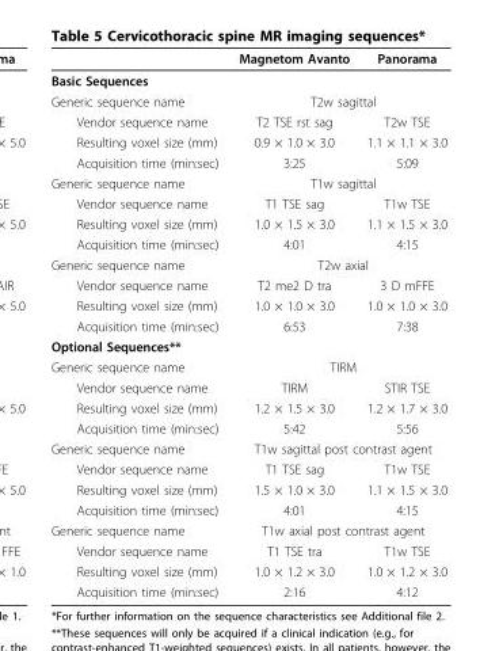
<table><thead><tr><td></td><td>Magnetom Avanto</td><td>Panorama</td></tr></thead><tbody><tr><td colspan="3">Basic Sequences</td></tr><tr><td>Generic sequence name</td><td colspan="2">T2w sagittal</td></tr><tr><td>Vendor sequence name</td><td>T2 TSE rst sag</td><td>T2w TSE</td></tr><tr><td>Resulting voxel size (mm)</td><td>0.9 × 1.0 × 3.0</td><td>1.1 × 1.1 × 3.0</td></tr><tr><td>Acquisition time (min:sec)</td><td>3:25</td><td>5:09</td></tr><tr><td>Generic sequence name</td><td colspan="2">T1w sagittal</td></tr><tr><td>Vendor sequence name</td><td>T1 TSE sag</td><td>T1w TSE</td></tr><tr><td>Resulting voxel size (mm)</td><td>1.0 × 1.5 × 3.0</td><td>1.1 × 1.5 × 3.0</td></tr><tr><td>Acquisition time (min:sec)</td><td>4:01</td><td>4:15</td></tr><tr><td>Generic sequence name</td><td colspan="2">T2w axial</td></tr><tr><td>Vendor sequence name</td><td>T2 me2 D tra</td><td>3 D mFFE</td></tr><tr><td>Resulting voxel size (mm)</td><td>1.0 × 1.0 × 3.0</td><td>1.0 × 1.0 × 3.0</td></tr><tr><td>Acquisition time (min:sec)</td><td>6:53</td><td>7:38</td></tr><tr><td colspan="3">Optional Sequences**</td></tr><tr><td>Generic sequence name</td><td colspan="2">TIRM</td></tr><tr><td>Vendor sequence name</td><td>TIRM</td><td>STIR TSE</td></tr><tr><td>Resulting voxel size (mm)</td><td>1.2 × 1.5 × 3.0</td><td>1.2 × 1.7 × 3.0</td></tr><tr><td>Acquisition time (min:sec)</td><td>5:42</td><td>5:56</td></tr><tr><td>Generic sequence name</td><td colspan="2">T1w sagittal post contrast agent</td></tr><tr><td>Vendor sequence name</td><td>T1 TSE sag</td><td>T1w TSE</td></tr><tr><td>Resulting voxel size (mm)</td><td>1.5 × 1.0 × 3.0</td><td>1.1 × 1.5 × 3.0</td></tr><tr><td>Acquisition time (min:sec)</td><td>4:01</td><td>4:15</td></tr><tr><td>Generic sequence name</td><td colspan="2">T1w axial post contrast agent</td></tr><tr><td>Vendor sequence name</td><td>T1 TSE tra</td><td>T1w TSE</td></tr><tr><td>Resulting voxel size (mm)</td><td>1.0 × 1.2 × 3.0</td><td>1.0 × 1.2 × 3.0</td></tr><tr><td>Acquisition time (min:sec)</td><td>2:16</td><td>4:12</td></tr></tbody></table>